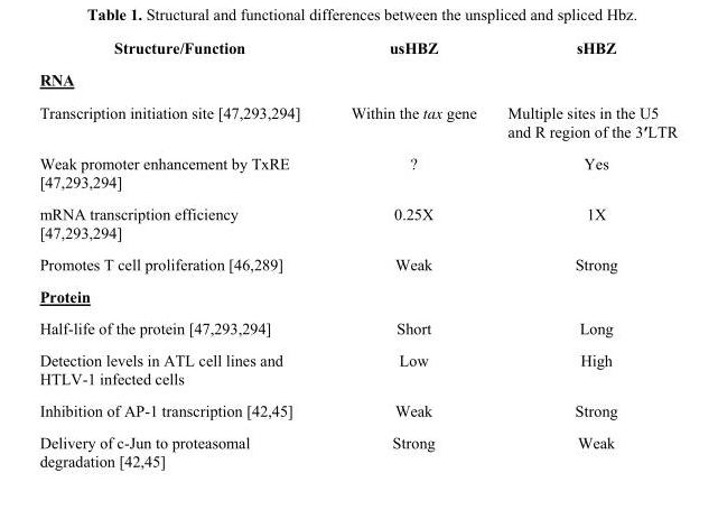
<table><thead><tr><td>Structure/Function</td><td>usHBZ</td><td>sHBZ</td></tr></thead><tbody><tr><td colspan="3">RNA</td></tr><tr><td>Transcription initiation site [47,293,294]</td><td>Within the tax gene</td><td>Multiple sites in the U5 and R region of the 3ʹLTR</td></tr><tr><td>Weak promoter enhancement by TxRE [47,293,294]</td><td>?</td><td>Yes</td></tr><tr><td>mRNA transcription efficiency [47,293,294]</td><td>0.25X</td><td>1X</td></tr><tr><td>Promotes T cell proliferation [46,289]</td><td>Weak</td><td>Strong</td></tr><tr><td colspan="3">Protein</td></tr><tr><td>Half-life of the protein [47,293,294]</td><td>Short</td><td>Long</td></tr><tr><td>Detection levels in ATL cell lines and HTLV-1 infected cells</td><td>Low</td><td>High</td></tr><tr><td>Inhibition of AP-1 transcription [42,45]</td><td>Weak</td><td>Strong</td></tr><tr><td>Delivery of c-Jun to proteasomal degradation [42,45]</td><td>Strong</td><td>Weak</td></tr></tbody></table>